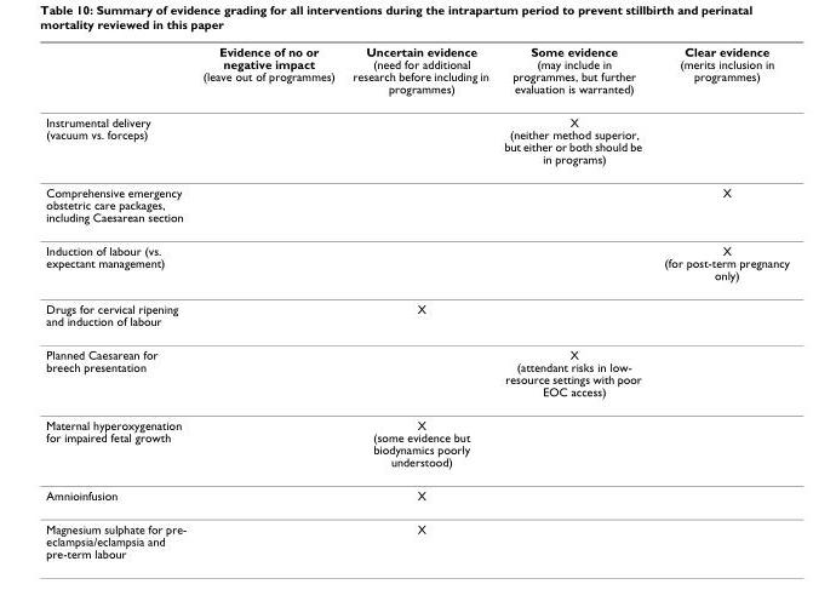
<table><thead><tr><td></td><td>Evidence of no or negative impact (leave out of programmes)</td><td>Uncertain evidence (need for additional research before including in programmes)</td><td>Some evidence (may include in programmes, but further evaluation is warranted)</td><td>Clear evidence (merits inclusion in programmes)</td></tr></thead><tbody><tr><td>Instrumental delivery (vacuum vs. forceps)</td><td></td><td></td><td>X (neither method superior, but either or both should be in programs)</td><td></td></tr><tr><td>Comprehensive emergency obstetric care packages, including Caesarean section</td><td></td><td></td><td></td><td>X</td></tr><tr><td>Induction of labour (vs. expectant management)</td><td></td><td></td><td></td><td>X (for post-term pregnancy only)</td></tr><tr><td>Drugs for cervical ripening and induction of labour</td><td></td><td>X</td><td></td><td></td></tr><tr><td>Planned Caesarean for breech presentation</td><td></td><td></td><td>X (attendant risks in low- resource settings with poor EOC access)</td><td></td></tr><tr><td>Maternal hyperoxygenation for impaired fetal growth</td><td></td><td>X (some evidence but biodynamics poorly understood)</td><td></td><td></td></tr><tr><td>Amnioinfusion</td><td></td><td>X</td><td></td><td></td></tr><tr><td>Magnesium sulphate for pre- eclampsia/eclampsia and pre-term labour</td><td></td><td>X</td><td></td><td></td></tr></tbody></table>